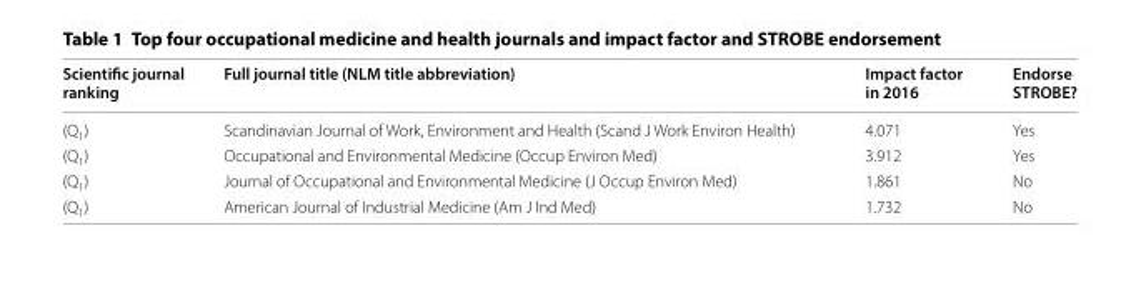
<table><thead><tr><td>Scientific journal ranking</td><td>Full journal title (NLM title abbreviation)</td><td>Impact factor in 2016</td><td>Endorse STROBE?</td></tr></thead><tbody><tr><td>(Q<sub>1</sub>)</td><td>Scandinavian Journal of Work, Environment and Health (Scand J Work Environ Health)</td><td>4.071</td><td>Yes</td></tr><tr><td>(Q<sub>1</sub>)</td><td>Occupational and Environmental Medicine (Occup Environ Med)</td><td>3.912</td><td>Yes</td></tr><tr><td>(Q<sub>1</sub>)</td><td>Journal of Occupational and Environmental Medicine (J Occup Environ Med)</td><td>1.861</td><td>No</td></tr><tr><td>(Q<sub>1</sub>)</td><td>American Journal of Industrial Medicine (Am J Ind Med)</td><td>1.732</td><td>No</td></tr></tbody></table>